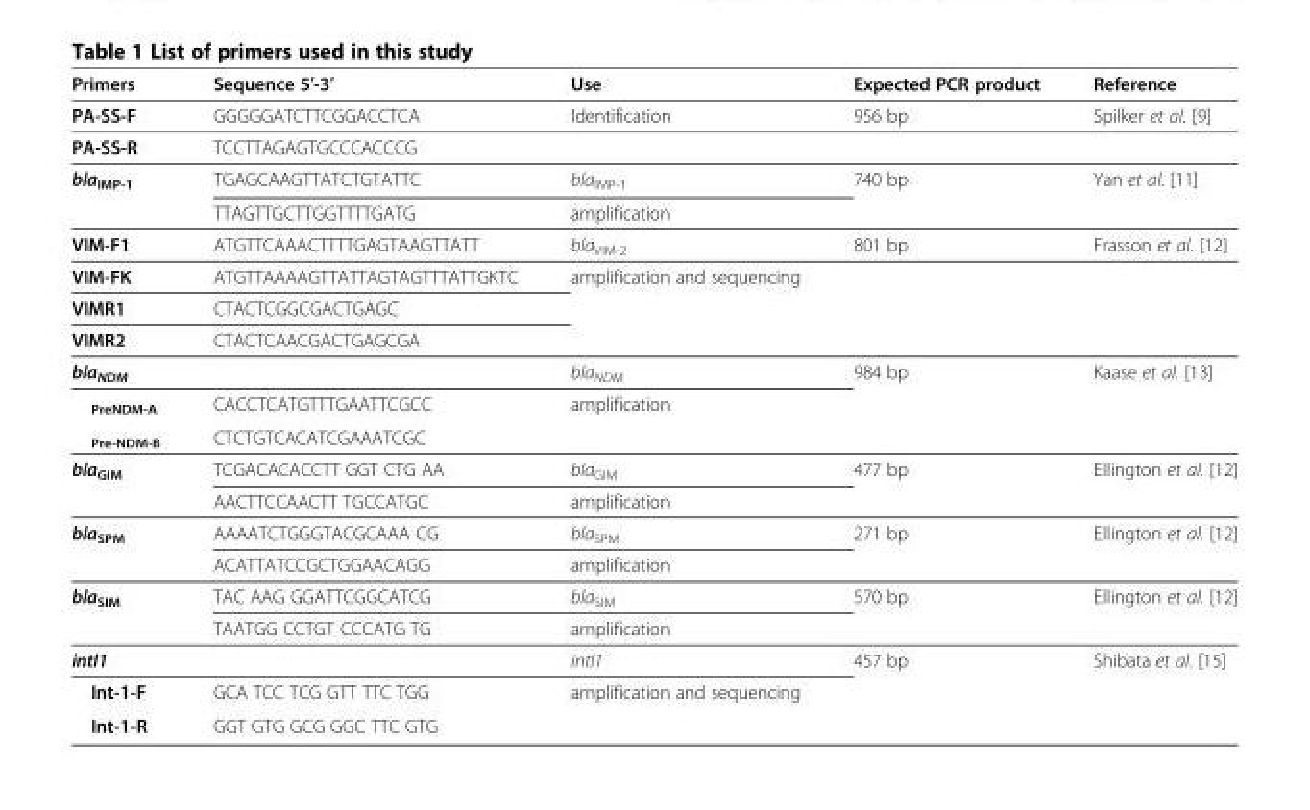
<table><thead><tr><td>Primers</td><td>Sequence 5′-3′</td><td>Use</td><td>Expected PCR product</td><td>Reference</td></tr></thead><tbody><tr><td>PA-SS-F</td><td>GGGGGATCTTCGGACCTCA</td><td>Identification</td><td>956 bp</td><td>Spilker et al. [9]</td></tr><tr><td>PA-SS-R</td><td>TCCTTAGAGTGCCCACCCG</td><td></td><td></td><td></td></tr><tr><td rowspan="2">bla<sub>IMP-1</sub></td><td>TGAGCAAGTTATCTGTATTC</td><td>bla<sub>IMP-1</sub></td><td>740 bp</td><td>Yan et al. [11]</td></tr><tr><td>TTAGTTGCTTGGTTTTGATG</td><td>amplification</td><td></td><td></td></tr><tr><td>VIM-F1</td><td>ATGTTCAAACTTTTGAGTAAGTTATT</td><td>bla<sub>VIM-2</sub></td><td>801 bp</td><td>Frasson et al. [12]</td></tr><tr><td>VIM-FK</td><td>ATGTTAAAAGTTATTAGTAGTTTATTGKTC</td><td rowspan="3">amplification and sequencing</td><td rowspan="3"></td><td rowspan="3"></td></tr><tr><td>VIMR1</td><td>CTACTCGGCGACTGAGC</td></tr><tr><td>VIMR2</td><td>CTACTCAACGACTGAGCGA</td></tr><tr><td>bla<sub>NDM</sub></td><td></td><td>bla<sub>NDM</sub></td><td rowspan="3">984 bp</td><td rowspan="3">Kaase et al. [13]</td></tr><tr><td><sub>PreNDM-A</sub></td><td>CACCTCATGTTTGAATTCGCC</td><td>amplification</td></tr><tr><td><sub>Pre-NDM-B</sub></td><td>CTCTGTCACATCGAAATCGC</td><td></td></tr><tr><td rowspan="2">bla<sub>GIM</sub></td><td>TCGACACACCTT GGT CTG AA</td><td>bla<sub>GIM</sub></td><td rowspan="2">477 bp</td><td rowspan="2">Ellington et al. [12]</td></tr><tr><td>AACTTCCAACTT TGCCATGC</td><td>amplification</td></tr><tr><td rowspan="2">bla<sub>SPM</sub></td><td>AAAATCTGGGTACGCAAA CG</td><td>bla<sub>SPM</sub></td><td rowspan="2">271 bp</td><td rowspan="2">Ellington et al. [12]</td></tr><tr><td>ACATTATCCGCTGGAACAGG</td><td>amplification</td></tr><tr><td rowspan="2">bla<sub>SIM</sub></td><td>TAC AAG GGATTCGGCATCG</td><td>bla<sub>SIM</sub></td><td rowspan="2">570 bp</td><td rowspan="2">Ellington et al. [12]</td></tr><tr><td>TAATGG CCTGT CCCATG TG</td><td>amplification</td></tr><tr><td>intI1</td><td></td><td>intI1</td><td rowspan="3">457 bp</td><td rowspan="3">Shibata et al. [15]</td></tr><tr><td>Int-1-F</td><td>GCA TCC TCG GTT TTC TGG</td><td rowspan="2">amplification and sequencing</td></tr><tr><td>Int-1-R</td><td>GGT GTG GCG GGC TTC GTG</td></tr></tbody></table>